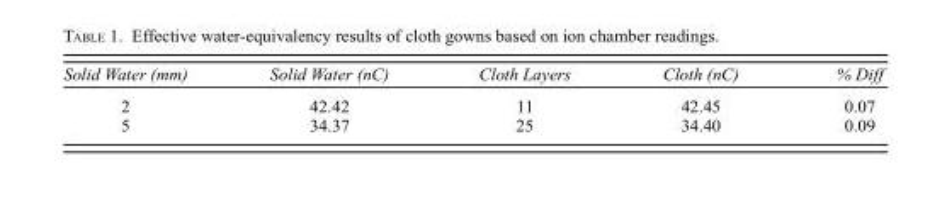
<table><thead><tr><td>Solid Water (mm)</td><td>Solid Water (nC)</td><td>Cloth Layers</td><td>Cloth (nC)</td><td>% Diff</td></tr></thead><tbody><tr><td>2</td><td>42.42</td><td>11</td><td>42.45</td><td>0.07</td></tr><tr><td>5</td><td>34.37</td><td>25</td><td>34.40</td><td>0.09</td></tr></tbody></table>